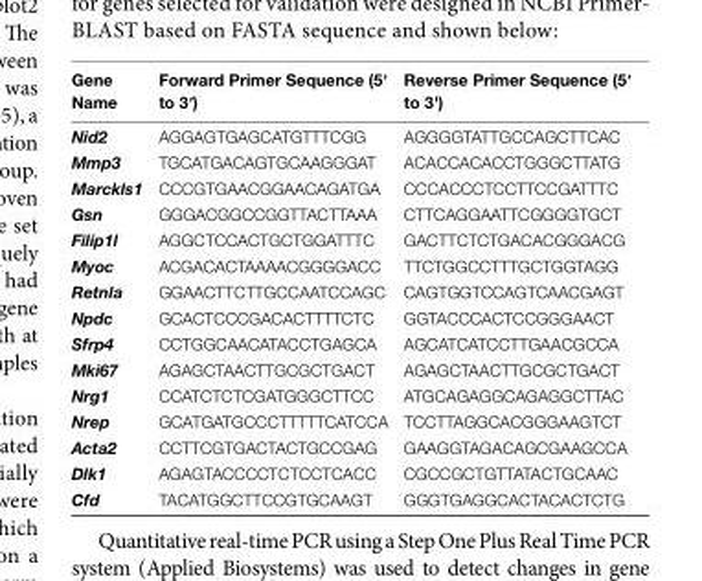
<table><thead><tr><td>gene name</td><td>Forward Primer sequence (5′ to 3′)</td><td>reverse Primer sequence (5′ to 3&#x27;)</td></tr></thead><tbody><tr><td>Nid2</td><td>AGGAGTGAGCATGTTTCGG</td><td>AGGGGTATTGCCAGCTTCAC</td></tr><tr><td>Mmp3</td><td>TGCATGACAGTGCAAGGGAT</td><td>ACACCACACCTGGGCTTATG</td></tr><tr><td>Marckls1</td><td>CCCGTGAACGGAACAGATGA</td><td>CCCACCCTCCTTCCGATTTC</td></tr><tr><td>Gsn</td><td>GGGACGGCCGGTTACTTAAA</td><td>CTTCAGGAATTCGGGGTGCT</td></tr><tr><td>Filip1l</td><td>AGGCTCCACTGCTGGATTTC</td><td>GACTTCTCTGACACGGGACG</td></tr><tr><td>Myoc</td><td>ACGACACTAAAACGGGGACC</td><td>TTCTGGCCTTTGCTGGTAGG</td></tr><tr><td>Retnla</td><td>GGA ACTT CTTG CCAA TCCAGC</td><td>CAGTGGTCCAGTCAACGAGT</td></tr><tr><td>Npdc</td><td>GCACTCCCGACACTTTTCTC</td><td>GGTACCCACTCCGGGAACT</td></tr><tr><td>Sfrp4</td><td>CCTGGCAACATACCTGAGCA</td><td>AGCATCATCCTTGAACGCCA</td></tr><tr><td>Mki67</td><td>AGAGCTAACTTGCGCTGACT</td><td>AGAGCTAACTTGCGCTGACT</td></tr><tr><td>Nrg1</td><td>CCATCTCTCGATGGGCTTCC</td><td>ATGCAGAGGCAGAGGCTTAC</td></tr><tr><td>Nrep</td><td>GCA TGAT GCCC TTTT TCATCCA</td><td>TCCTTAGGCACGGGAAGTCT</td></tr><tr><td>Acta2</td><td>CCTTCGTGACTACTGCCGAG</td><td>GAAGGTAGACAGCGAAGCCA</td></tr><tr><td>Dlk1</td><td>AGAGTACCCCTCTCCTCACC</td><td>CGCCGCTGTTATACTGCAAC</td></tr><tr><td>Cfd</td><td>TACATGGCTTCCGTGCAAGT</td><td>GGGTGAGGCACTACACTCTG</td></tr></tbody></table>